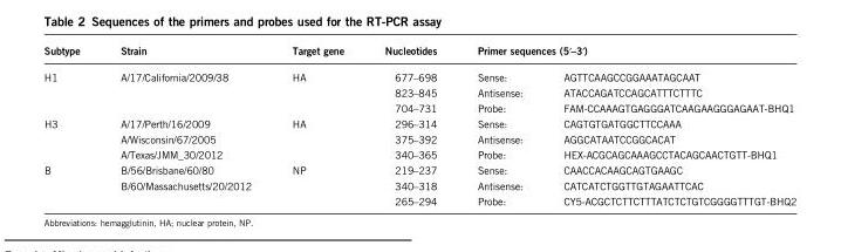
<table><thead><tr><td rowspan="2">Subtype H1</td><td rowspan="2">Strain A/17/California/2009/38</td><td rowspan="2">Target gene HA</td><td rowspan="2">Nucleotides 677–698</td><td colspan="2">Primer sequences (5ʹ–3ʹ)</td></tr><tr><td>Sense:</td><td>AGTTCAAGCCGGAAATAGCAAT</td></tr></thead><tbody><tr><td></td><td></td><td></td><td>823–845</td><td>Antisense:</td><td>ATACCAGATCCAGCATTTCTTTC</td></tr><tr><td></td><td></td><td></td><td>704–731</td><td>Probe:</td><td>FAM-CCAAAGTGAGGGATCAAGAAGGGAGAAT-BHQ1</td></tr><tr><td rowspan="3">H3</td><td>A/17/Perth/16/2009</td><td>HA</td><td>296–314</td><td>Sense:</td><td>CAGTGTGATGGCTTCCAAA</td></tr><tr><td>A/Wisconsin/67/2005</td><td></td><td>375–392</td><td>Antisense:</td><td>AGGCATAATCCGGCACAT</td></tr><tr><td>A/Texas/JMM_30/2012</td><td></td><td>340–365</td><td>Probe:</td><td>HEX-ACGCAGCAAAGCCTACAGCAACTGTT-BHQ1</td></tr><tr><td rowspan="3">B</td><td>B/56/Brisbane/60/80</td><td>NP</td><td>219–237</td><td>Sense:</td><td>CAACCACAAGCAGTGAAGC</td></tr><tr><td>B/60/Massachusetts/20/2012</td><td></td><td>340–318</td><td>Antisense:</td><td>CATCATCTGGTTGTAGAATTCAC</td></tr><tr><td></td><td></td><td>265–294</td><td>Probe:</td><td>CY5-ACGCTCTTCTTTATCTCTGTCGGGGTTTGT-BHQ2</td></tr></tbody></table>